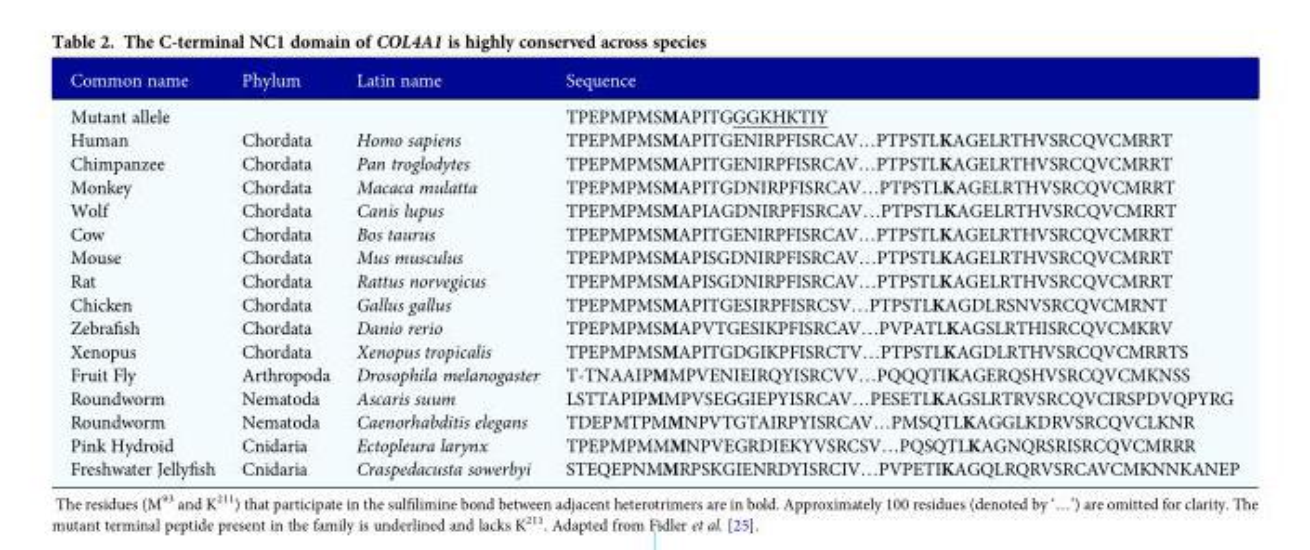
<table><thead><tr><td>Common name</td><td>Phylum</td><td>Latin name</td><td>Sequence</td></tr></thead><tbody><tr><td>Mutant allele</td><td></td><td></td><td>TPEPMPMSMAPITGGGKHKTIY</td></tr><tr><td>Human</td><td>Chordata</td><td>Homo sapiens</td><td>TPEPMPMSMAPITGENIRPFISRCAV…PTPSTLKAGELRTHVSRCQVCMRRT</td></tr><tr><td>Chimpanzee</td><td>Chordata</td><td>Pan troglodytes</td><td>TPEPMPMSMAPITGENIRPFISRCAV…PTPSTLKAGELRTHVSRCQVCMRRT</td></tr><tr><td>Monkey</td><td>Chordata</td><td>Macaca mulatta</td><td>TPEPMPMSMAPITGDNIRPFISRCAV…PTPSTLKAGELRTHVSRCQVCMRRT</td></tr><tr><td>Wolf</td><td>Chordata</td><td>Canis lupus</td><td>TPEPMPMSMAPIAGDNIRPFISRCAV…PTPSTLKAGELRTHVSRCQVCMRRT</td></tr><tr><td>Cow</td><td>Chordata</td><td>Bos taurus</td><td>TPEPMPMSMAPITGENIRPFISRCAV…PTPSTLKAGELRTHVSRCQVCMRRT</td></tr><tr><td>Mouse</td><td>Chordata</td><td>Mus musculus</td><td>TPEPMPMSMAPISGDNIRPFISRCAV…PTPSTLKAGELRTHVSRCQVCMRRT</td></tr><tr><td>Rat</td><td>Chordata</td><td>Rattus norvegicus</td><td>TPEPMPMSMAPISGDNIRPFISRCAV…PTPSTLKAGELRTHVSRCQVCMRRT</td></tr><tr><td>Chicken</td><td>Chordata</td><td>Gallus gallus</td><td>TPEPMPMSMAPITGESIRPFISRCSV…PTPSTLKAGDLRSNVSRCQVCMRNT</td></tr><tr><td>Zebrafish</td><td>Chordata</td><td>Danio rerio</td><td>TPEPMPMSMAPVTGESIKPFISRCAV…PVPATLKAGSLRTHISRCQVCMKRV</td></tr><tr><td>Xenopus</td><td>Chordata</td><td>Xenopus tropicalis</td><td>TPEPMPMSMAPITGDGIKPFISRCTV…PTPSTLKAGDLRTHVSRCQVCMRRTS</td></tr><tr><td>Fruit Fly</td><td>Arthropoda</td><td>Drosophila melanogaster</td><td>T-TNAAIPMMPVENIEIRQYISRCVV…PQQQTIKAGERQSHVSRCQVCMKNSS</td></tr><tr><td>Roundworm</td><td>Nematoda</td><td>Ascaris suum</td><td>LSTTAPIPMMPVSEGGIEPYISRCAV…PESETLKAGSLRTRVSRCQVCIRSPDVQPYRG</td></tr><tr><td>Roundworm</td><td>Nematoda</td><td>Caenorhabditis elegans</td><td>TDEPMTPMMNPVTGTAIRPYISRCAV…PMSQTLKAGGLKDRVSRCQVCLKNR</td></tr><tr><td>Pink Hydroid</td><td>Cnidaria</td><td>Ectopleura larynx</td><td>TPEPMPMMMNPVEGRDIEKYVSRCSV…PQSQTLKAGNQRSRISRCQVCMRRR</td></tr><tr><td>Freshwater Jellyfish</td><td>Cnidaria</td><td>Craspedacusta sowerbyi</td><td>STEQEPNMMRPSKGIENRDYISRCIV…PVPETIKAGQLRQRVSRCAVCMKNNKANEP</td></tr></tbody></table>